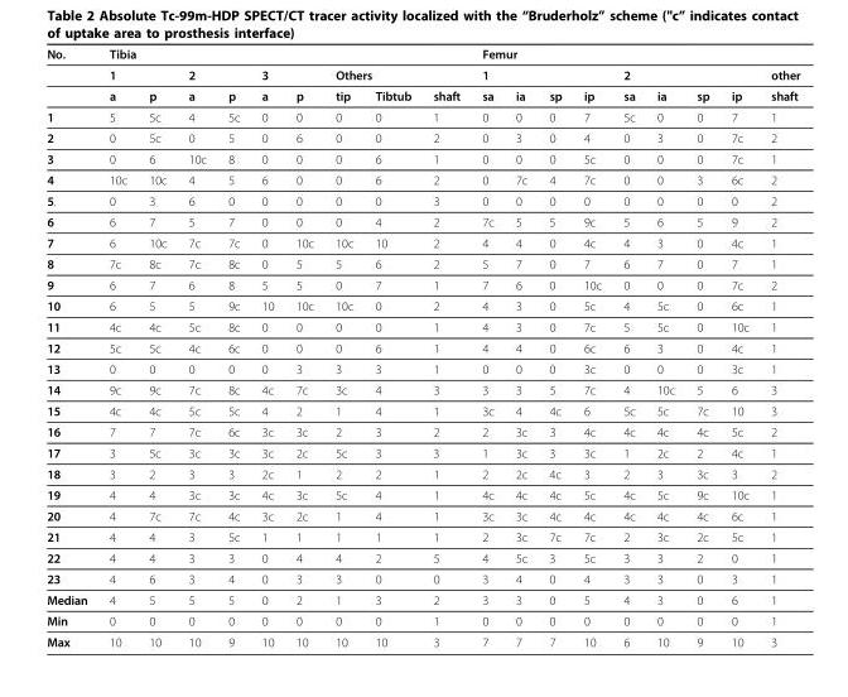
<table><thead><tr><td rowspan="3">No.</td><td colspan="9">Tibia</td><td colspan="9">Femur</td></tr><tr><td colspan="2">1</td><td colspan="2">2</td><td colspan="2">3</td><td colspan="3">Others</td><td colspan="4">1</td><td colspan="4">2</td><td rowspan="2">other shaft</td></tr><tr><td>a</td><td>p</td><td>a</td><td>p</td><td>a</td><td>p</td><td>tip</td><td>Tibtub</td><td>shaft</td><td>sa</td><td>ia</td><td>sp</td><td>ip</td><td>sa</td><td>ia</td><td>sp</td><td>ip</td></tr></thead><tbody><tr><td>1</td><td>5</td><td>5c</td><td>4</td><td>5c</td><td>0</td><td>0</td><td>0</td><td>0</td><td>1</td><td>0</td><td>0</td><td>0</td><td>7</td><td>5c</td><td>0</td><td>0</td><td>7</td><td>1</td></tr><tr><td>2</td><td>0</td><td>5c</td><td>0</td><td>5</td><td>0</td><td>6</td><td>0</td><td>0</td><td>2</td><td>0</td><td>3</td><td>0</td><td>4</td><td>0</td><td>3</td><td>0</td><td>7c</td><td>2</td></tr><tr><td>3</td><td>0</td><td>6</td><td>10c</td><td>8</td><td>0</td><td>0</td><td>0</td><td>6</td><td>1</td><td>0</td><td>0</td><td>0</td><td>5c</td><td>0</td><td>0</td><td>0</td><td>7c</td><td>1</td></tr><tr><td>4</td><td>10c</td><td>10c</td><td>4</td><td>5</td><td>6</td><td>0</td><td>0</td><td>6</td><td>2</td><td>0</td><td>7c</td><td>4</td><td>7c</td><td>0</td><td>0</td><td>3</td><td>6c</td><td>2</td></tr><tr><td>5.</td><td>0</td><td>3</td><td>6</td><td>0</td><td>0</td><td>0</td><td>0</td><td>0</td><td>3</td><td>0</td><td>0</td><td>0</td><td>0</td><td>0</td><td>0</td><td>0</td><td>0</td><td>2</td></tr><tr><td>6</td><td>6</td><td>7</td><td>5</td><td>7</td><td>0</td><td>0</td><td>0</td><td>4</td><td>2</td><td>7c</td><td>5</td><td>5</td><td>9c</td><td>5</td><td>6</td><td>5</td><td>9</td><td>2</td></tr><tr><td>7</td><td>6</td><td>10c</td><td>7c</td><td>7c</td><td>0</td><td>10c</td><td>10c</td><td>10</td><td>2</td><td>4</td><td>4</td><td>0</td><td>4c</td><td>4</td><td>3</td><td>0</td><td>4c</td><td>1</td></tr><tr><td>8</td><td>7c</td><td>8c</td><td>7c</td><td>8c</td><td>0</td><td>5</td><td>5</td><td>6</td><td>2</td><td>5</td><td>7</td><td>0</td><td>7</td><td>6</td><td>7</td><td>0</td><td>7</td><td>1</td></tr><tr><td>9</td><td>6</td><td>7</td><td>6</td><td>8</td><td>5</td><td>5</td><td>0</td><td>7</td><td>1</td><td>7</td><td>6</td><td>0</td><td>10c</td><td>0</td><td>0</td><td>0</td><td>7c</td><td>2</td></tr><tr><td>10</td><td>6</td><td>5</td><td>5</td><td>9c</td><td>10</td><td>10c</td><td>10c</td><td>0</td><td>2</td><td>4</td><td>3</td><td>0</td><td>5c</td><td>4</td><td>5c</td><td>0</td><td>6c</td><td>1</td></tr><tr><td>11</td><td>4c</td><td>4c</td><td>5c</td><td>8c</td><td>0</td><td>0</td><td>0</td><td>0</td><td>1</td><td>4</td><td>3</td><td>0</td><td>7c</td><td>5</td><td>5c</td><td>0</td><td>10c</td><td>1</td></tr><tr><td>12</td><td>5c</td><td>5c</td><td>4c</td><td>6c</td><td>0</td><td>0</td><td>0</td><td>6</td><td>1</td><td>4</td><td>4</td><td>0</td><td>6c</td><td>6</td><td>3</td><td>0</td><td>4c</td><td>1</td></tr><tr><td>13</td><td>0</td><td>0</td><td>0</td><td>0</td><td>0</td><td>3</td><td>3</td><td>3</td><td>1</td><td>0</td><td>0</td><td>0</td><td>3c</td><td>0</td><td>0</td><td>0</td><td>3c</td><td>1</td></tr><tr><td>14</td><td>9c</td><td>9c</td><td>7c</td><td>8c</td><td>4c</td><td>7c</td><td>3c</td><td>4</td><td>3</td><td>3</td><td>3</td><td>5</td><td>7c</td><td>4</td><td>10c</td><td>5</td><td>6</td><td>3</td></tr><tr><td>15</td><td>4c</td><td>4c</td><td>5c</td><td>5c</td><td>4</td><td>2</td><td>1</td><td>4</td><td>1</td><td>3c</td><td>4</td><td>4c</td><td>6</td><td>5c</td><td>5c</td><td>7c</td><td>10</td><td>3</td></tr><tr><td>16</td><td>7</td><td>7</td><td>7c</td><td>6c</td><td>3c</td><td>3c</td><td>2</td><td>3</td><td>2</td><td>2</td><td>3c</td><td>3</td><td>4c</td><td>4c</td><td>4c</td><td>4c</td><td>5c</td><td>2</td></tr><tr><td>17</td><td>3</td><td>5c</td><td>3c</td><td>3c</td><td>3c</td><td>2c</td><td>5c</td><td>3</td><td>3</td><td>1</td><td>3c</td><td>3</td><td>3c</td><td>1</td><td>2c</td><td>2</td><td>4c</td><td>1</td></tr><tr><td>18</td><td>3</td><td>2</td><td>3</td><td>3</td><td>2c</td><td>1</td><td>2</td><td>2</td><td>1</td><td>2</td><td>2c</td><td>4c</td><td>3</td><td>2</td><td>3</td><td>3c</td><td>3</td><td>2</td></tr><tr><td>19</td><td>4</td><td>4</td><td>3c</td><td>3c</td><td>4c</td><td>3c</td><td>5c</td><td>4</td><td>1</td><td>4c</td><td>4c</td><td>4c</td><td>5c</td><td>4c</td><td>5c</td><td>9c</td><td>10c</td><td>1</td></tr><tr><td>20</td><td>4</td><td>7c</td><td>7c</td><td>4c</td><td>3c</td><td>2c</td><td>1</td><td>4</td><td>1</td><td>3c</td><td>3c</td><td>4c</td><td>4c</td><td>4c</td><td>4c</td><td>4c</td><td>6c</td><td>1</td></tr><tr><td>21</td><td>4</td><td>4</td><td>3</td><td>5c</td><td>1</td><td>1</td><td>1</td><td>1</td><td>1</td><td>2</td><td>3c</td><td>7c</td><td>7c</td><td>2</td><td>3c</td><td>2c</td><td>5c</td><td>1</td></tr><tr><td>22</td><td>4</td><td>4</td><td>3</td><td>3</td><td>0</td><td>4</td><td>4</td><td>2</td><td>5</td><td>4</td><td>5c</td><td>3</td><td>5c</td><td>3</td><td>3</td><td>2</td><td>0</td><td>1</td></tr><tr><td>23</td><td>4</td><td>6</td><td>3</td><td>4</td><td>0</td><td>3</td><td>3</td><td>0</td><td>0</td><td>3</td><td>4</td><td>0</td><td>4</td><td>3</td><td>3</td><td>0</td><td>3</td><td>1</td></tr><tr><td>Median</td><td>4</td><td>5</td><td>5</td><td>5</td><td>0</td><td>2</td><td>1</td><td>3</td><td>2</td><td>3</td><td>3</td><td>0</td><td>5</td><td>4</td><td>3</td><td>0</td><td>6</td><td>1</td></tr><tr><td>Min</td><td>0</td><td>0</td><td>0</td><td>0</td><td>0</td><td>0</td><td>0</td><td>0</td><td>1</td><td>0</td><td>0</td><td>0</td><td>0</td><td>0</td><td>0</td><td>0</td><td>0</td><td>1</td></tr><tr><td>Max</td><td>10</td><td>10</td><td>10</td><td>9</td><td>10</td><td>10</td><td>10</td><td>10</td><td>3</td><td>7</td><td>7</td><td>7</td><td>10</td><td>6</td><td>10</td><td>9</td><td>10</td><td>3</td></tr></tbody></table>